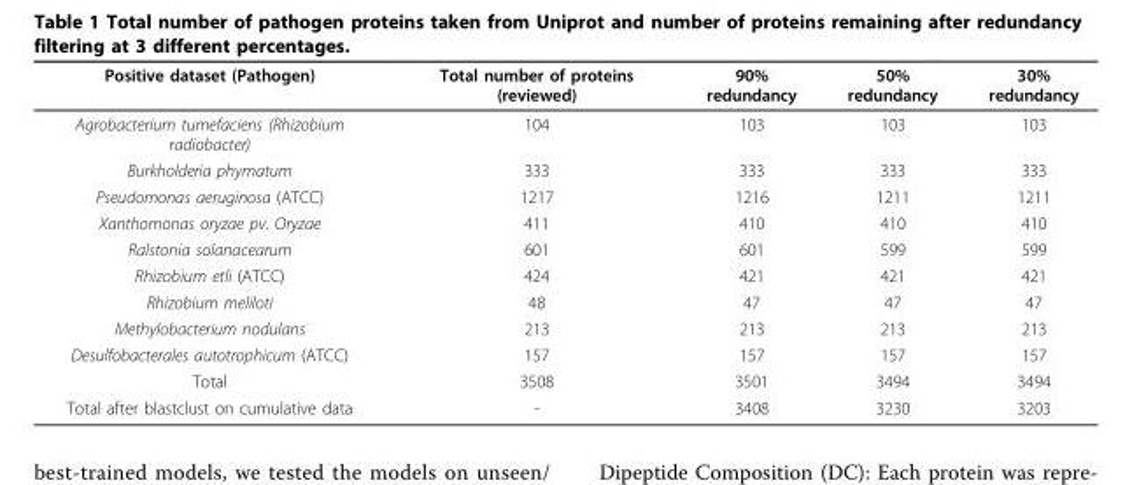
<table><thead><tr><td>Positive dataset (Pathogen)</td><td>Total number of proteins (reviewed)</td><td>90% redundancy</td><td>50% redundancy</td><td>30% redundancy</td></tr></thead><tbody><tr><td>Agrobacterium tumefaciens (Rhizobium radiobacter)</td><td>104</td><td>103</td><td>103</td><td>103</td></tr><tr><td>Burkholderia phymatum</td><td>333</td><td>333</td><td>333</td><td>333</td></tr><tr><td>Pseudomonas aeruginosa (ATCC)</td><td>1217</td><td>1216</td><td>1211</td><td>1211</td></tr><tr><td>Xanthomonas oryzae pv. Oryzae</td><td>411</td><td>410</td><td>410</td><td>410</td></tr><tr><td>Ralstonia solanacearum</td><td>601</td><td>601</td><td>599</td><td>599</td></tr><tr><td>Rhizobium etli (ATCC)</td><td>424</td><td>421</td><td>421</td><td>421</td></tr><tr><td>Rhizobium meliloti</td><td>48</td><td>47</td><td>47</td><td>47</td></tr><tr><td>Methylobacterium nodulans</td><td>213</td><td>213</td><td>213</td><td>213</td></tr><tr><td>Desulfobacterales autotrophicum (ATCC)</td><td>157</td><td>157</td><td>157</td><td>157</td></tr><tr><td>Total</td><td>3508</td><td>3501</td><td>3494</td><td>3494</td></tr><tr><td>Total after blastclust on cumulative data</td><td>-</td><td>3408</td><td>3230</td><td>3203</td></tr></tbody></table>